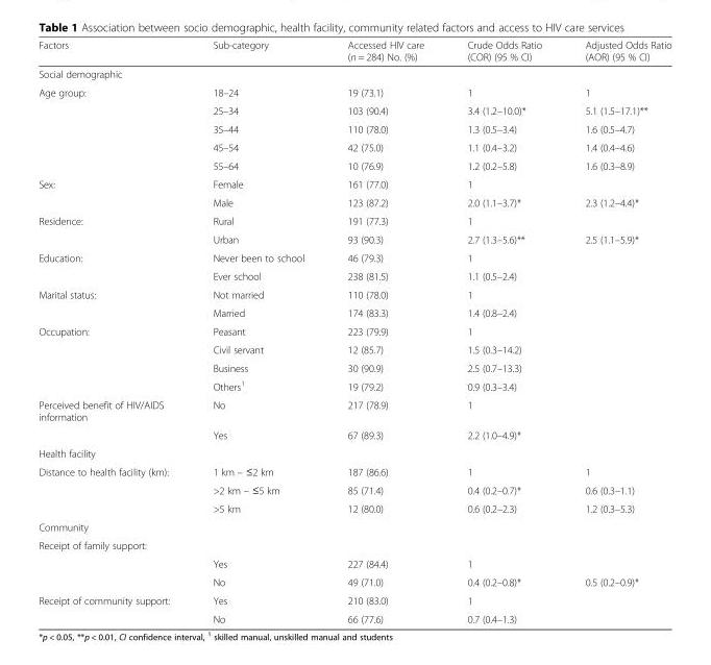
<table><thead><tr><td>Factors</td><td>Sub-category</td><td>Accessed HIV care (n = 284) No. (%)</td><td>Crude Odds Ratio (COR) (95 % CI)</td><td>Adjusted Odds Ratio (AOR) (95 % CI)</td></tr></thead><tbody><tr><td colspan="5">Social demographic</td></tr><tr><td rowspan="5">Age group:</td><td>18–24</td><td>19 (73.1)</td><td>1</td><td>1</td></tr><tr><td>25–34</td><td>103 (90.4)</td><td>3.4 (1.2–10.0)*</td><td>5.1 (1.5–17.1)**</td></tr><tr><td>35–44</td><td>110 (78.0)</td><td>1.3 (0.5–3.4)</td><td>1.6 (0.5–4.7)</td></tr><tr><td>45–54</td><td>42 (75.0)</td><td>1.1 (0.4–3.2)</td><td>1.4 (0.4–4.6)</td></tr><tr><td>55–64</td><td>10 (76.9)</td><td>1.2 (0.2–5.8)</td><td>1.6 (0.3–8.9)</td></tr><tr><td rowspan="2">Sex:</td><td>Female</td><td>161 (77.0)</td><td>1</td><td></td></tr><tr><td>Male</td><td>123 (87.2)</td><td>2.0 (1.1–3.7)*</td><td>2.3 (1.2–4.4)*</td></tr><tr><td rowspan="2">Residence:</td><td>Rural</td><td>191 (77.3)</td><td>1</td><td></td></tr><tr><td>Urban</td><td>93 (90.3)</td><td>2.7 (1.3–5.6)**</td><td>2.5 (1.1–5.9)*</td></tr><tr><td rowspan="2">Education:</td><td>Never been to school</td><td>46 (79.3)</td><td>1</td><td></td></tr><tr><td>Ever school</td><td>238 (81.5)</td><td>1.1 (0.5–2.4)</td><td></td></tr><tr><td rowspan="2">Marital status:</td><td>Not married</td><td>110 (78.0)</td><td>1</td><td></td></tr><tr><td>Married</td><td>174 (83.3)</td><td>1.4 (0.8–2.4)</td><td></td></tr><tr><td rowspan="4">Occupation:</td><td>Peasant</td><td>223 (79.9)</td><td>1</td><td></td></tr><tr><td>Civil servant</td><td>12 (85.7)</td><td>1.5 (0.3–14.2)</td><td></td></tr><tr><td>Business</td><td>30 (90.9)</td><td>2.5 (0.7–13.3)</td><td></td></tr><tr><td>Others<sup>1</sup></td><td>19 (79.2)</td><td>0.9 (0.3–3.4)</td><td></td></tr><tr><td rowspan="2">Perceived benefit of HIV/AIDS information</td><td>No</td><td>217 (78.9)</td><td>1</td><td></td></tr><tr><td>Yes</td><td>67 (89.3)</td><td>2.2 (1.0–4.9)*</td><td></td></tr><tr><td colspan="5">Health facility</td></tr><tr><td rowspan="3">Distance to health facility (km):</td><td>1 km – ≤2 km</td><td>187 (86.6)</td><td>1</td><td>1</td></tr><tr><td>&gt;2 km – ≤5 km</td><td>85 (71.4)</td><td>0.4 (0.2–0.7)*</td><td>0.6 (0.3–1.1)</td></tr><tr><td>&gt;5 km</td><td>12 (80.0)</td><td>0.6 (0.2–2.3)</td><td>1.2 (0.3–5.3)</td></tr><tr><td colspan="5">Community</td></tr><tr><td colspan="5">Receipt of family support:</td></tr><tr><td></td><td>Yes</td><td>227 (84.4)</td><td>1</td><td></td></tr><tr><td></td><td>No</td><td>49 (71.0)</td><td>0.4 (0.2–0.8)*</td><td>0.5 (0.2–0.9)*</td></tr><tr><td rowspan="2">Receipt of community support:</td><td>Yes</td><td>210 (83.0)</td><td>1</td><td></td></tr><tr><td>No</td><td>66 (77.6)</td><td>0.7 (0.4–1.3)</td><td></td></tr></tbody></table>